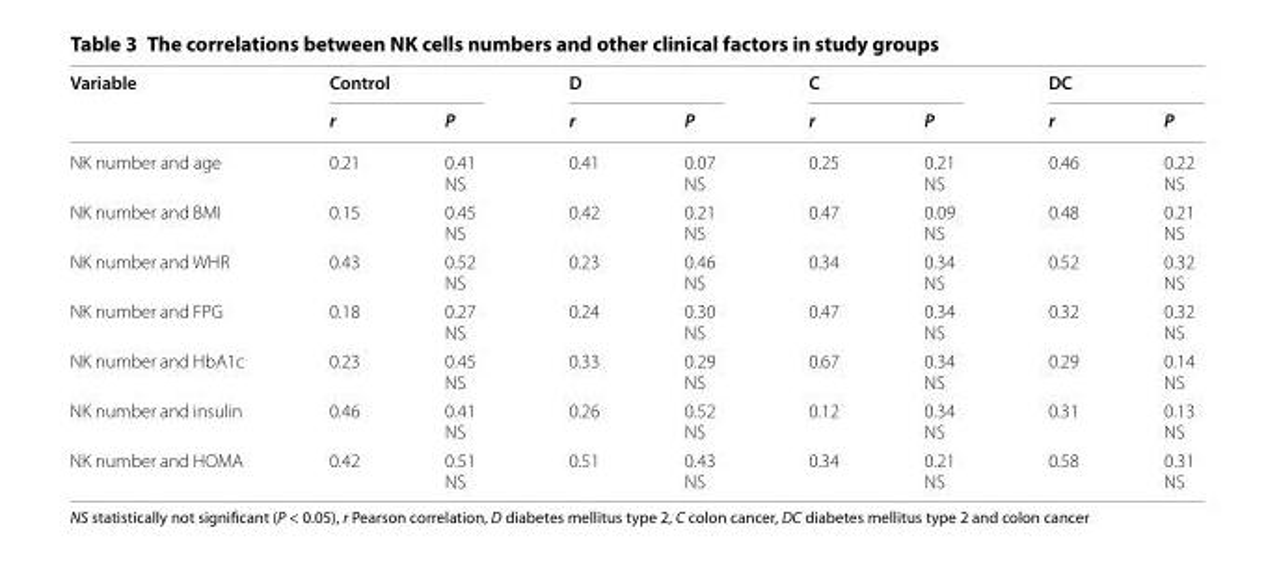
<table><thead><tr><td rowspan="2">Variable</td><td colspan="2">Control</td><td colspan="2">D</td><td colspan="2">C</td><td colspan="2">DC</td></tr><tr><td>r</td><td>P</td><td>r</td><td>P</td><td>r</td><td>P</td><td>r</td><td>P</td></tr></thead><tbody><tr><td>NK number and age</td><td>0.21</td><td>0.41 NS</td><td>0.41</td><td>0.07 NS</td><td>0.25</td><td>0.21 NS</td><td>0.46</td><td>0.22 NS</td></tr><tr><td>NK number and BMI</td><td>0.15</td><td>0.45 NS</td><td>0.42</td><td>0.21 NS</td><td>0.47</td><td>0.09 NS</td><td>0.48</td><td>0.21 NS</td></tr><tr><td>NK number and WHR</td><td>0.43</td><td>0.52 NS</td><td>0.23</td><td>0.46 NS</td><td>0.34</td><td>0.34 NS</td><td>0.52</td><td>0.32 NS</td></tr><tr><td>NK number and FPG</td><td>0.18</td><td>0.27 NS</td><td>0.24</td><td>0.30 NS</td><td>0.47</td><td>0.34 NS</td><td>0.32</td><td>0.32 NS</td></tr><tr><td>NK number and HbA1c</td><td>0.23</td><td>0.45 NS</td><td>0.33</td><td>0.29 NS</td><td>0.67</td><td>0.34 NS</td><td>0.29</td><td>0.14 NS</td></tr><tr><td>NK number and insulin</td><td>0.46</td><td>0.41 NS</td><td>0.26</td><td>0.52 NS</td><td>0.12</td><td>0.34 NS</td><td>0.31</td><td>0.13 NS</td></tr><tr><td>NK number and HOMA</td><td>0.42</td><td>0.51 NS</td><td>0.51</td><td>0.43 NS</td><td>0.34</td><td>0.21 NS</td><td>0.58</td><td>0.31 NS</td></tr></tbody></table>